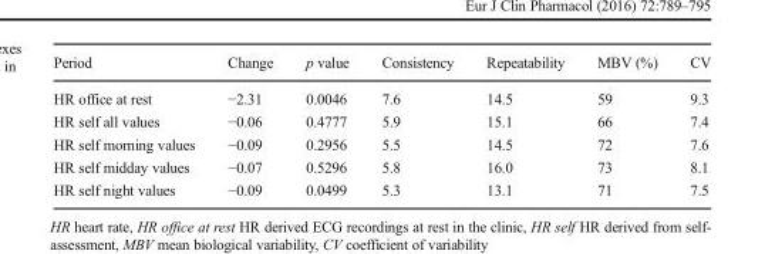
<table><thead><tr><td>Period</td><td>Change</td><td>p value</td><td>Consistency</td><td>Repeatability</td><td>MBV (%)</td><td>CV</td></tr></thead><tbody><tr><td>HR office at rest</td><td>−2.31</td><td>0.0046</td><td>7.6</td><td>14.5</td><td>59</td><td>9.3</td></tr><tr><td>HR self all values</td><td>−0.06</td><td>0.4777</td><td>5.9</td><td>15.1</td><td>66</td><td>7.4</td></tr><tr><td>HR self morning values</td><td>−0.09</td><td>0.2956</td><td>5.5</td><td>14.5</td><td>72</td><td>7.6</td></tr><tr><td>HR self midday values</td><td>−0.07</td><td>0.5296</td><td>5.8</td><td>16.0</td><td>73</td><td>8.1</td></tr><tr><td>HR self night values</td><td>−0.09</td><td>0.0499</td><td>5.3</td><td>13.1</td><td>71</td><td>7.5</td></tr></tbody></table>